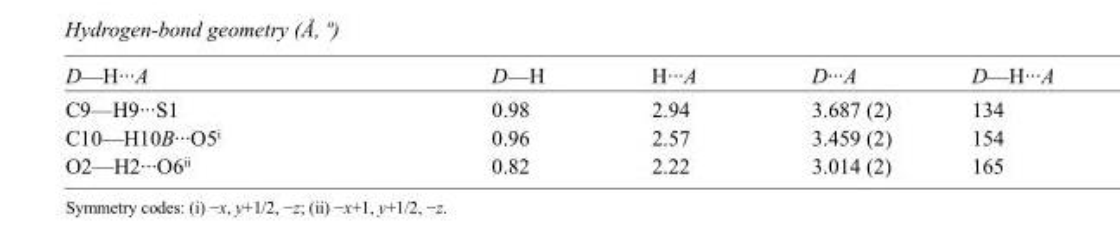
<table><tbody><tr><td>D—H···A</td><td>D—H</td><td>H···A</td><td>D···A</td><td>D—H···A</td></tr><tr><td>C9—H9···S1</td><td>0.98</td><td>2.94</td><td>3.687 (2)</td><td>134</td></tr><tr><td>C10—H10B···O5<sup>i</sup></td><td>0.96</td><td>2.57</td><td>3.459 (2)</td><td>154</td></tr><tr><td>O2—H2···O6<sup>ii</sup></td><td>0.82</td><td>2.22</td><td>3.014 (2)</td><td>165</td></tr></tbody></table>